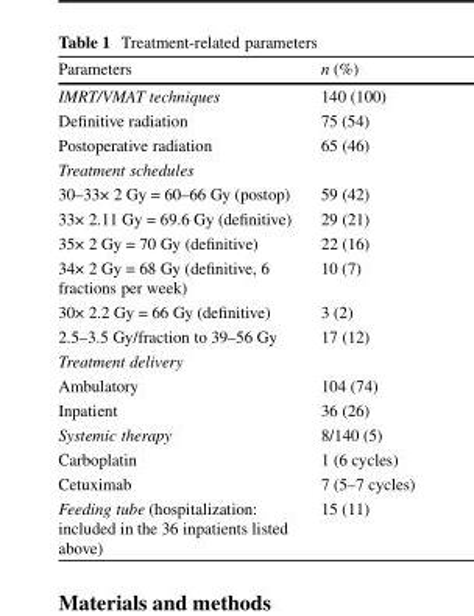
<table><thead><tr><td>Parameters</td><td>n (%)</td></tr></thead><tbody><tr><td>IMRT/VMAT techniques</td><td>140 (100)</td></tr><tr><td>Definitive radiation</td><td>75 (54)</td></tr><tr><td>Postoperative radiation</td><td>65 (46)</td></tr><tr><td colspan="2">Treatment schedules</td></tr><tr><td>30–33× 2 Gy = 60–66 Gy (postop)</td><td>59 (42)</td></tr><tr><td>33× 2.11 Gy = 69.6 Gy (definitive)</td><td>29 (21)</td></tr><tr><td>35× 2 Gy = 70 Gy (definitive)</td><td>22 (16)</td></tr><tr><td>34× 2 Gy = 68 Gy (definitive, 6 fractions per week)</td><td>10 (7)</td></tr><tr><td>30× 2.2 Gy = 66 Gy (definitive)</td><td>3 (2)</td></tr><tr><td>2.5–3.5 Gy/fraction to 39–56 Gy</td><td>17 (12)</td></tr><tr><td colspan="2">Treatment delivery</td></tr><tr><td>Ambulatory</td><td>104 (74)</td></tr><tr><td>Inpatient</td><td>36 (26)</td></tr><tr><td>Systemic therapy</td><td>8/140 (5)</td></tr><tr><td>Carboplatin</td><td>1 (6 cycles)</td></tr><tr><td>Cetuximab</td><td>7 (5–7 cycles)</td></tr><tr><td>Feeding tube (hospitalization: included in the 36 inpatients listed above)</td><td>15 (11)</td></tr></tbody></table>